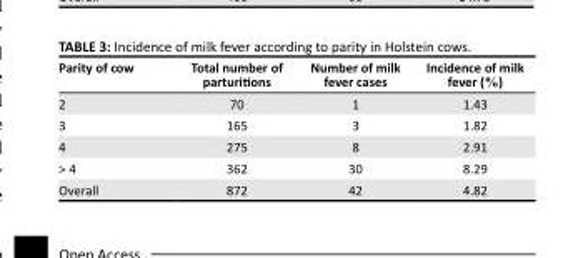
<table><thead><tr><td>Parity of cow</td><td>Total number of parturitions</td><td>Number of milk fever cases</td><td>Incidence of milk fever (%)</td></tr></thead><tbody><tr><td>2</td><td>70</td><td>1</td><td>1.43</td></tr><tr><td>3</td><td>165</td><td>3</td><td>1.82</td></tr><tr><td>4</td><td>275</td><td>8</td><td>2.91</td></tr><tr><td>&gt; 4</td><td>362</td><td>30</td><td>8.29</td></tr><tr><td>Overall</td><td>872</td><td>42</td><td>4.82</td></tr></tbody></table>